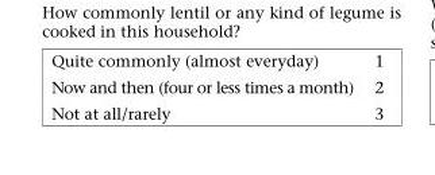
<table><tbody><tr><td>Quite commonly (almost everyday)</td><td>1</td></tr><tr><td>Now and then (four or less times a month)</td><td>2</td></tr><tr><td>Not at all/rarely</td><td>3</td></tr></tbody></table>